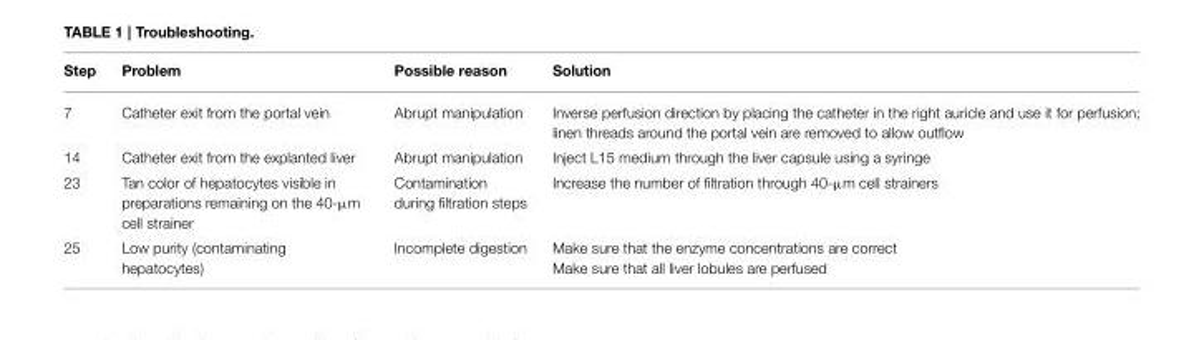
<table><thead><tr><td>Step</td><td>Problem</td><td>Possible reason</td><td>Solution</td></tr></thead><tbody><tr><td>7</td><td>Catheter exit from the portal vein</td><td>Abrupt manipulation</td><td>Inverse perfusion direction by placing the catheter in the right auricle and use it for perfusion; linen threads around the portal vein are removed to allow outflow</td></tr><tr><td>14</td><td>Catheter exit from the explanted liver</td><td>Abrupt manipulation</td><td>Inject L15 medium through the liver capsule using a syringe</td></tr><tr><td>23</td><td>Tan color of hepatocytes visible in preparations remaining on the 40-µm cell strainer</td><td>Contamination during filtration steps</td><td>Increase the number of filtration through 40-µm cell strainers</td></tr><tr><td>25</td><td>Low purity (contaminating hepatocytes)</td><td>Incomplete digestion</td><td>Make sure that the enzyme concentrations are correct Make sure that all liver lobules are perfused</td></tr></tbody></table>